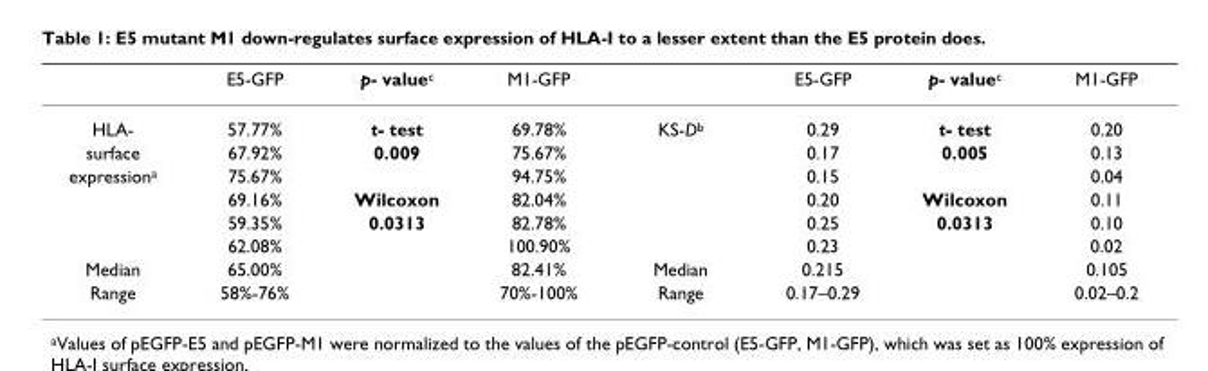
<table><thead><tr><td></td><td>E5-GFP</td><td>p- value<sup>c</sup></td><td>M1-GFP</td><td></td><td>E5-GFP</td><td>p- value<sup>c</sup></td><td>M1-GFP</td></tr></thead><tbody><tr><td>HLA-</td><td>57.77%</td><td>t- test</td><td>69.78%</td><td>KS-D<sup>b</sup></td><td>0.29</td><td>t- test</td><td>0.20</td></tr><tr><td>surface</td><td>67.92%</td><td>0.009</td><td>75.67%</td><td></td><td>0.17</td><td>0.005</td><td>0.13</td></tr><tr><td rowspan="4">expression<sup>a</sup></td><td>75.67%</td><td></td><td>94.75%</td><td></td><td>0.15</td><td></td><td>0.04</td></tr><tr><td>69.16%</td><td>Wilcoxon</td><td>82.04%</td><td></td><td>0.20</td><td>Wilcoxon</td><td>0.11</td></tr><tr><td>59.35%</td><td>0.0313</td><td>82.78%</td><td></td><td>0.25</td><td>0.0313</td><td>0.10</td></tr><tr><td>62.08%</td><td></td><td>100.90%</td><td></td><td>0.23</td><td></td><td>0.02</td></tr><tr><td>Median</td><td>65.00%</td><td></td><td>82.41%</td><td>Median</td><td>0.215</td><td></td><td>0.105</td></tr><tr><td>Range</td><td>58%-76%</td><td></td><td>70%-100%</td><td>Range</td><td>0.17–0.29</td><td></td><td>0.02–0.2</td></tr></tbody></table>